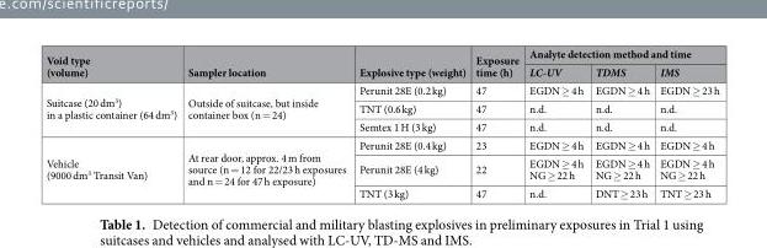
<table><thead><tr><td rowspan="2">Void type (volume)</td><td rowspan="2">Sampler location</td><td rowspan="2">Explosive type (weight)</td><td rowspan="2">Exposure time (h)</td><td colspan="3">Analyte detection method and time</td></tr><tr><td>LC-UV</td><td>TDMS</td><td>IMS</td></tr></thead><tbody><tr><td rowspan="3">Suitcase (20 dm<sup>3</sup>) in a plastic container (64 dm<sup>3</sup>)</td><td rowspan="3">Outside of suitcase, but inside container box (n = 24)</td><td>Perunit 28E (0.2 kg)</td><td>47</td><td>EGDN ≥ 4 h</td><td>EGDN ≥ 4 h</td><td>EGDN ≥ 23 h</td></tr><tr><td>TNT (0.6 kg)</td><td>47</td><td>n.d.</td><td>n.d.</td><td>n.d.</td></tr><tr><td>Semtex 1 H (3 kg)</td><td>47</td><td>n.d.</td><td>n.d.</td><td>n.d.</td></tr><tr><td rowspan="3">Vehicle (9000 dm<sup>3</sup> Transit Van)</td><td rowspan="3">At rear door, approx. 4 m from source (n = 12 for 22/23 h exposures and n = 24 for 47 h exposure)</td><td>Perunit 28E (0.4 kg)</td><td>23</td><td>EGDN ≥ 4 h</td><td>EGDN ≥ 4 h</td><td>EGDN ≥ 4 h</td></tr><tr><td>Perunit 28E (4 kg)</td><td>22</td><td>EGDN ≥ 4 h NG ≥ 22 h</td><td>EGDN ≥ 4 h NG ≥ 22 h</td><td>EGDN ≥ 4 h NG ≥ 22 h</td></tr><tr><td>TNT (3 kg)</td><td>47</td><td>n.d.</td><td>DNT ≥ 23 h</td><td>TNT ≥ 23 h</td></tr></tbody></table>